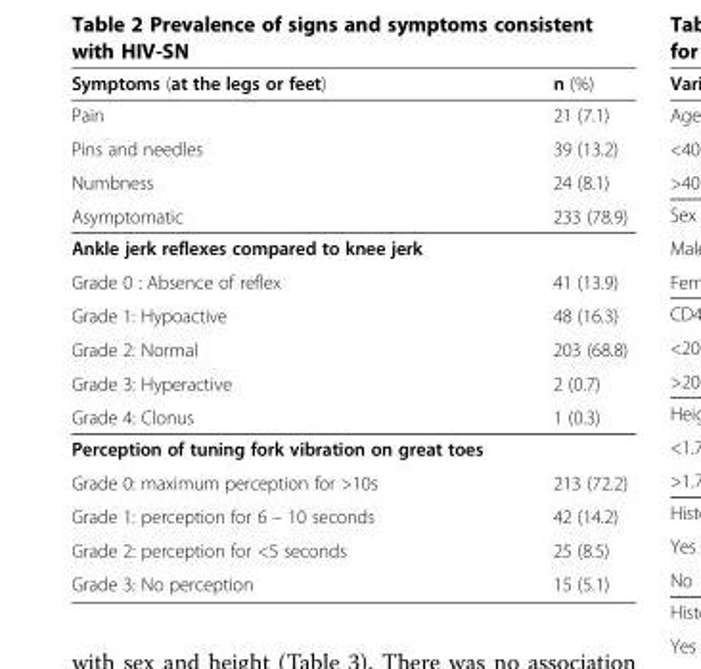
<table><thead><tr><td>Symptoms (at the legs or feet)</td><td>n (%)</td></tr></thead><tbody><tr><td>Pain</td><td>21 (7.1)</td></tr><tr><td>Pins and needles</td><td>39 (13.2)</td></tr><tr><td>Numbness</td><td>24 (8.1)</td></tr><tr><td>Asymptomatic</td><td>233 (78.9)</td></tr><tr><td colspan="2">Ankle jerk reflexes compared to knee jerk</td></tr><tr><td>Grade 0 : Absence of reflex</td><td>41 (13.9)</td></tr><tr><td>Grade 1: Hypoactive</td><td>48 (16.3)</td></tr><tr><td>Grade 2: Normal</td><td>203 (68.8)</td></tr><tr><td>Grade 3: Hyperactive</td><td>2 (0.7)</td></tr><tr><td>Grade 4: Clonus</td><td>1 (0.3)</td></tr><tr><td colspan="2">Perception of tuning fork vibration on great toes</td></tr><tr><td>Grade 0: maximum perception for &gt;10s</td><td>213 (72.2)</td></tr><tr><td>Grade 1: perception for 6 – 10 seconds</td><td>42 (14.2)</td></tr><tr><td>Grade 2: perception for &lt;5 seconds</td><td>25 (8.5)</td></tr><tr><td>Grade 3: No perception</td><td>15 (5.1)</td></tr></tbody></table>